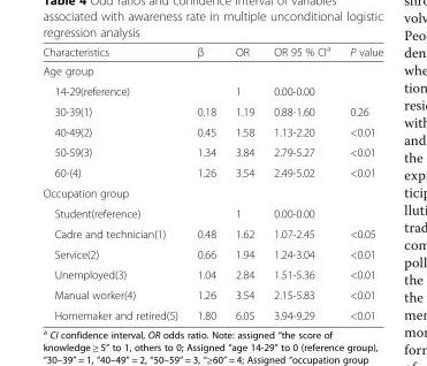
<table><thead><tr><td>Characteristics</td><td>β</td><td>OR</td><td>OR 95 % CI<sup>a</sup></td><td>P value</td></tr></thead><tbody><tr><td colspan="5">Age group</td></tr><tr><td>14-29(reference)</td><td></td><td>1</td><td>0.00-0.00</td><td></td></tr><tr><td>30-39(1)</td><td>0.18</td><td>1.19</td><td>0.88-1.60</td><td>0.26</td></tr><tr><td>40-49(2)</td><td>0.45</td><td>1.58</td><td>1.13-2.20</td><td>&lt;0.01</td></tr><tr><td>50-59(3)</td><td>1.34</td><td>3.84</td><td>2.79-5.27</td><td>&lt;0.01</td></tr><tr><td>60-(4)</td><td>1.26</td><td>3.54</td><td>2.49-5.02</td><td>&lt;0.01</td></tr><tr><td colspan="5">Occupation group</td></tr><tr><td>Student(reference)</td><td></td><td>1</td><td>0.00-0.00</td><td></td></tr><tr><td>Cadre and technician(1)</td><td>0.48</td><td>1.62</td><td>1.07-2.45</td><td>&lt;0.05</td></tr><tr><td>Service(2)</td><td>0.66</td><td>1.94</td><td>1.24-3.04</td><td>&lt;0.01</td></tr><tr><td>Unemployed(3)</td><td>1.04</td><td>2.84</td><td>1.51-5.36</td><td>&lt;0.01</td></tr><tr><td>Manual worker(4)</td><td>1.26</td><td>3.54</td><td>2.15-5.83</td><td>&lt;0.01</td></tr><tr><td>Homemaker and retired(5)</td><td>1.80</td><td>6.05</td><td>3.94-9.29</td><td>&lt;0.01</td></tr></tbody></table>